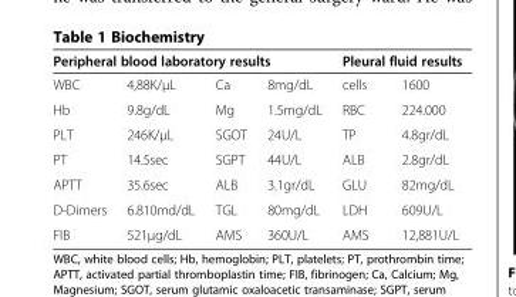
<table><thead><tr><td colspan="4">Peripheral blood laboratory results</td><td colspan="2">Pleural fluid results</td></tr><tr><td>WBC</td><td>4,88K/μL</td><td>Ca</td><td>8mg/dL</td><td>cells</td><td>1600</td></tr></thead><tbody><tr><td>Hb</td><td>9.8g/dL</td><td>Mg</td><td>1.5mg/dL</td><td>RBC</td><td>224.000</td></tr><tr><td>PLT</td><td>246K/μL</td><td>SGOT</td><td>24U/L</td><td>TP</td><td>4.8gr/dL</td></tr><tr><td>PT</td><td>14.5sec</td><td>SGPT</td><td>44U/L</td><td>ALB</td><td>2.8gr/dL</td></tr><tr><td>APTT</td><td>35.6sec</td><td>ALB</td><td>3.1gr/dL</td><td>GLU</td><td>82mg/dL</td></tr><tr><td>D-Dimers</td><td>6.810md/dL</td><td>TGL</td><td>80mg/dL</td><td>LDH</td><td>609U/L</td></tr><tr><td>FIB</td><td>521μg/dL</td><td>AMS</td><td>360U/L</td><td>AMS</td><td>12,881U/L</td></tr></tbody></table>